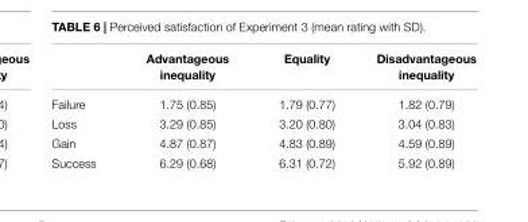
<table><thead><tr><td></td><td>Advantageous inequality</td><td>Equality</td><td>Disadvantageous inequality</td></tr></thead><tbody><tr><td>Failure</td><td>1.75 (0.85)</td><td>1.79 (0.77)</td><td>1.82 (0.79)</td></tr><tr><td>Loss</td><td>3.29 (0.85)</td><td>3.20 (0.80)</td><td>3.04 (0.83)</td></tr><tr><td>Gain</td><td>4.87 (0.87)</td><td>4.83 (0.89)</td><td>4.59 (0.89)</td></tr><tr><td>Success</td><td>6.29 (0.68)</td><td>6.31 (0.72)</td><td>5.92 (0.89)</td></tr></tbody></table>